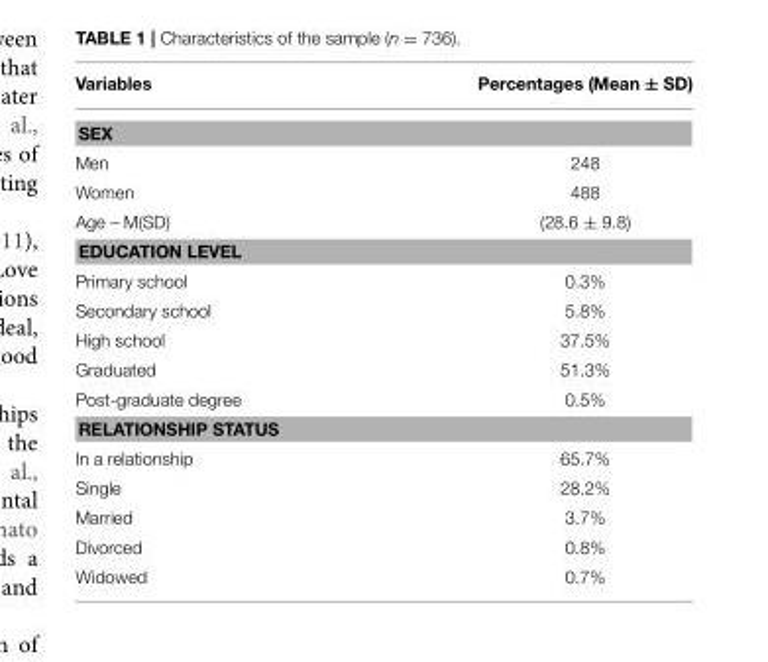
<table><thead><tr><td>Variables</td><td>Percentages (Mean ± SD)</td></tr></thead><tbody><tr><td colspan="2">SEX</td></tr><tr><td>Men</td><td>248</td></tr><tr><td>Women</td><td>488</td></tr><tr><td>Age – M(SD)</td><td>(28.6 ± 9.8)</td></tr><tr><td colspan="2">EDUCATION LEVEL</td></tr><tr><td>Primary school</td><td>0.3%</td></tr><tr><td>Secondary school</td><td>5.8%</td></tr><tr><td>High school</td><td>37.5%</td></tr><tr><td>Graduated</td><td>51.3%</td></tr><tr><td>Post-graduate degree</td><td>0.5%</td></tr><tr><td colspan="2">RELATIONSHIP STATUS</td></tr><tr><td>In a relationship</td><td>65.7%</td></tr><tr><td>Single</td><td>28.2%</td></tr><tr><td>Married</td><td>3.7%</td></tr><tr><td>Divorced</td><td>0.8%</td></tr><tr><td>Widowed</td><td>0.7%</td></tr></tbody></table>